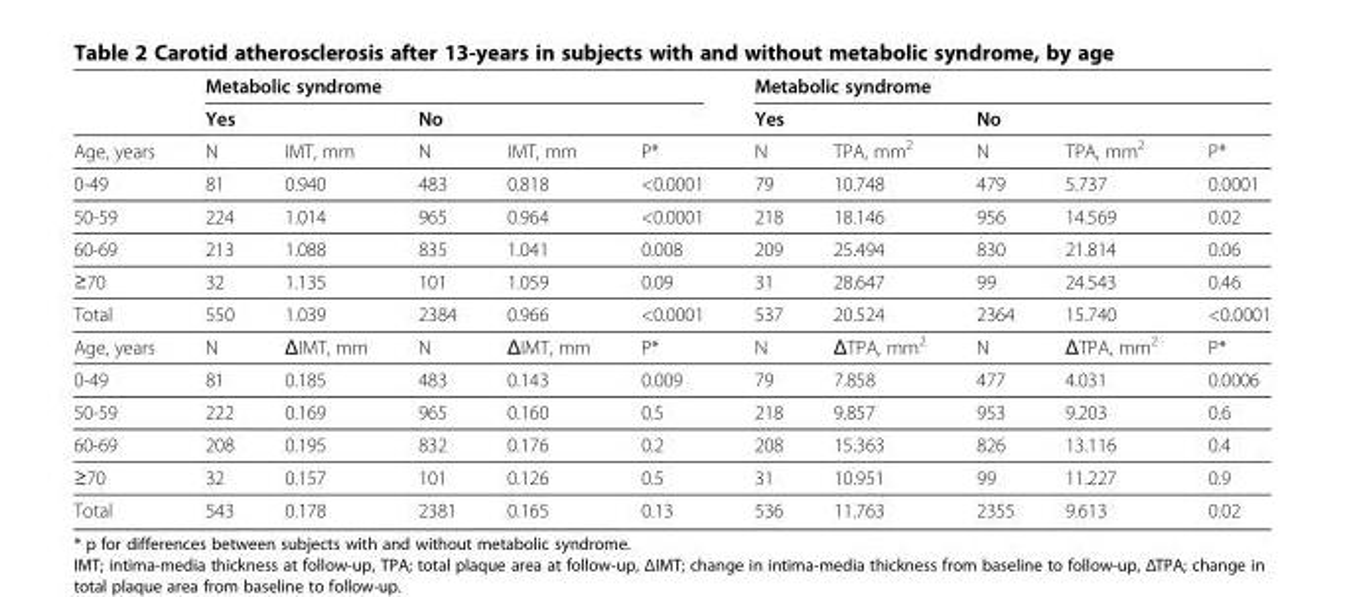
<table><thead><tr><td rowspan="3">Age, years</td><td colspan="5">Metabolic syndrome</td><td colspan="5">Metabolic syndrome</td></tr><tr><td colspan="2">Yes</td><td colspan="2">No</td><td rowspan="2">P*</td><td colspan="2">Yes</td><td colspan="2">No</td><td rowspan="2">P*</td></tr><tr><td>N</td><td>IMT, mm</td><td>N</td><td>IMT, mm</td><td>N</td><td>TPA, mm<sup>2</sup></td><td>N</td><td>TPA, mm<sup>2</sup></td></tr></thead><tbody><tr><td>0-49</td><td>81</td><td>0.940</td><td>483</td><td>0.818</td><td>&lt;0.0001</td><td>79</td><td>10.748</td><td>479</td><td>5.737</td><td>0.0001</td></tr><tr><td>50-59</td><td>224</td><td>1.014</td><td>965</td><td>0.964</td><td>&lt;0.0001</td><td>218</td><td>18.146</td><td>956</td><td>14.569</td><td>0.02</td></tr><tr><td>60-69</td><td>213</td><td>1.088</td><td>835</td><td>1.041</td><td>0.008</td><td>209</td><td>25.494</td><td>830</td><td>21.814</td><td>0.06</td></tr><tr><td>≥70</td><td>32</td><td>1.135</td><td>101</td><td>1.059</td><td>0.09</td><td>31</td><td>28.647</td><td>99</td><td>24.543</td><td>0.46</td></tr><tr><td>Total</td><td>550</td><td>1.039</td><td>2384</td><td>0.966</td><td>&lt;0.0001</td><td>537</td><td>20.524</td><td>2364</td><td>15.740</td><td>&lt;0.0001</td></tr><tr><td>Age, years</td><td>N</td><td>ΔIMT, mm</td><td>N</td><td>ΔIMT, mm</td><td>P*</td><td>N</td><td>ΔTPA, mm<sup>2</sup></td><td>N</td><td>ΔTPA, mm<sup>2</sup></td><td>P*</td></tr><tr><td>0-49</td><td>81</td><td>0.185</td><td>483</td><td>0.143</td><td>0.009</td><td>79</td><td>7.858</td><td>477</td><td>4.031</td><td>0.0006</td></tr><tr><td>50-59</td><td>222</td><td>0.169</td><td>965</td><td>0.160</td><td>0.5</td><td>218</td><td>9.857</td><td>953</td><td>9.203</td><td>0.6</td></tr><tr><td>60-69</td><td>208</td><td>0.195</td><td>832</td><td>0.176</td><td>0.2</td><td>208</td><td>15.363</td><td>826</td><td>13.116</td><td>0.4</td></tr><tr><td>≥70</td><td>32</td><td>0.157</td><td>101</td><td>0.126</td><td>0.5</td><td>31</td><td>10.951</td><td>99</td><td>11.227</td><td>0.9</td></tr><tr><td>Total</td><td>543</td><td>0.178</td><td>2381</td><td>0.165</td><td>0.13</td><td>536</td><td>11.763</td><td>2355</td><td>9.613</td><td>0.02</td></tr></tbody></table>